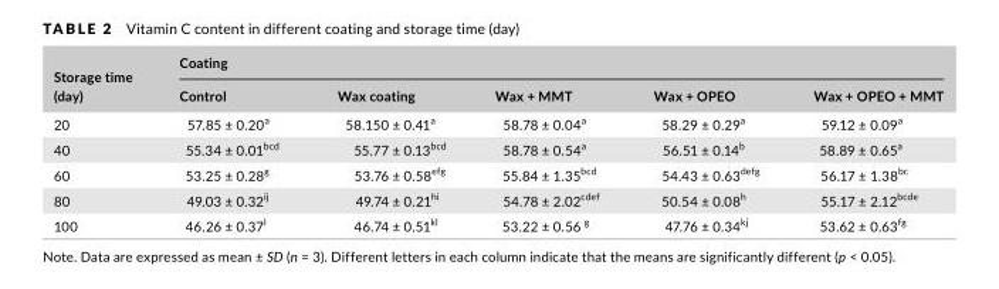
<table><thead><tr><td rowspan="2">Storage time (day)</td><td colspan="5">Coating</td></tr><tr><td>Control</td><td>Wax coating</td><td>Wax + MMT</td><td>Wax + OPEO</td><td>Wax + OPEO + MMT</td></tr></thead><tbody><tr><td>20</td><td>57.85 ± 0.20<sup>a</sup></td><td>58.150 ± 0.41<sup>a</sup></td><td>58.78 ± 0.04<sup>a</sup></td><td>58.29 ± 0.29<sup>a</sup></td><td>59.12 ± 0.09<sup>a</sup></td></tr><tr><td>40</td><td>55.34 ± 0.01<sup>bcd</sup></td><td>55.77 ± 0.13<sup>bcd</sup></td><td>58.78 ± 0.54<sup>a</sup></td><td>56.51 ± 0.14<sup>b</sup></td><td>58.89 ± 0.65<sup>a</sup></td></tr><tr><td>60</td><td>53.25 ± 0.28<sup>g</sup></td><td>53.76 ± 0.58<sup>efg</sup></td><td>55.84 ± 1.35<sup>bcd</sup></td><td>54.43 ± 0.63<sup>defg</sup></td><td>56.17 ± 1.38<sup>bc</sup></td></tr><tr><td>80</td><td>49.03 ± 0.32<sup>ij</sup></td><td>49.74 ± 0.21<sup>hi</sup></td><td>54.78 ± 2.02<sup>cdef</sup></td><td>50.54 ± 0.08<sup>h</sup></td><td>55.17 ± 2.12<sup>bcde</sup></td></tr><tr><td>100</td><td>46.26 ± 0.37<sup>l</sup></td><td>46.74 ± 0.51<sup>kl</sup></td><td>53.22 ± 0.56 <sup>g</sup></td><td>47.76 ± 0.34<sup>kj</sup></td><td>53.62 ± 0.63<sup>fg</sup></td></tr></tbody></table>